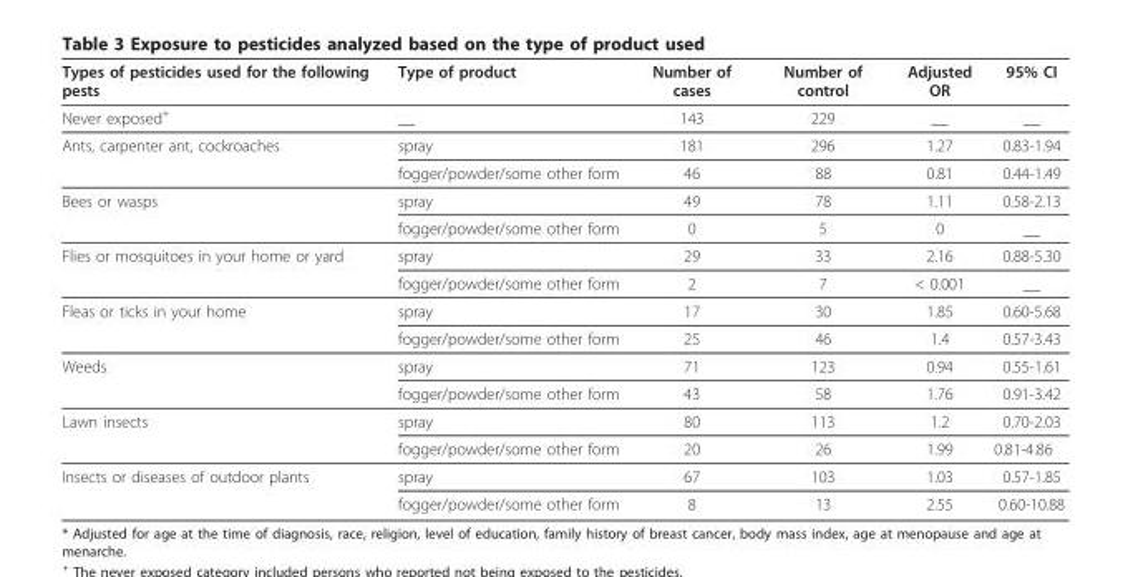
<table><thead><tr><td>Types of pesticides used for the following pests</td><td>Type of product</td><td>Number of cases</td><td>Number of control</td><td>Adjusted OR</td><td>95% CI</td></tr></thead><tbody><tr><td>Never exposed<sup>+</sup></td><td>__</td><td>143</td><td>229</td><td>__</td><td>__</td></tr><tr><td rowspan="2">Ants, carpenter ant, cockroaches</td><td>spray</td><td>181</td><td>296</td><td>1.27</td><td>0.83-1.94</td></tr><tr><td>fogger/powder/some other form</td><td>46</td><td>88</td><td>0.81</td><td>0.44-1.49</td></tr><tr><td rowspan="2">Bees or wasps</td><td>spray</td><td>49</td><td>78</td><td>1.11</td><td>0.58-2.13</td></tr><tr><td>fogger/powder/some other form</td><td>0</td><td>5</td><td>0</td><td>__</td></tr><tr><td rowspan="2">Flies or mosquitoes in your home or yard</td><td>spray</td><td>29</td><td>33</td><td>2.16</td><td>0.88-5.30</td></tr><tr><td>fogger/powder/some other form</td><td>2</td><td>7</td><td>&lt; 0.001</td><td>__</td></tr><tr><td rowspan="2">Fleas or ticks in your home</td><td>spray</td><td>17</td><td>30</td><td>1.85</td><td>0.60-5.68</td></tr><tr><td>fogger/powder/some other form</td><td>25</td><td>46</td><td>1.4</td><td>0.57-3.43</td></tr><tr><td rowspan="2">Weeds</td><td>spray</td><td>71</td><td>123</td><td>0.94</td><td>0.55-1.61</td></tr><tr><td>fogger/powder/some other form</td><td>43</td><td>58</td><td>1.76</td><td>0.91-3.42</td></tr><tr><td rowspan="2">Lawn insects</td><td>spray</td><td>80</td><td>113</td><td>1.2</td><td>0.70-2.03</td></tr><tr><td>fogger/powder/some other form</td><td>20</td><td>26</td><td>1.99</td><td>0.81-4.86</td></tr><tr><td rowspan="2">Insects or diseases of outdoor plants</td><td>spray</td><td>67</td><td>103</td><td>1.03</td><td>0.57-1.85</td></tr><tr><td>fogger/powder/some other form</td><td>8</td><td>13</td><td>2.55</td><td>0.60-10.88</td></tr></tbody></table>